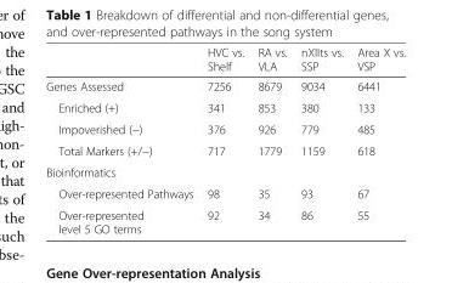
<table><thead><tr><td></td><td>HVC vs. Shelf</td><td>RA vs. VLA</td><td>nXIIts vs. SSP</td><td>Area X vs. VSP</td></tr></thead><tbody><tr><td>Genes Assessed</td><td>7256</td><td>8679</td><td>9034</td><td>6441</td></tr><tr><td>Enriched (+)</td><td>341</td><td>853</td><td>380</td><td>133</td></tr><tr><td>Impoverished (−)</td><td>376</td><td>926</td><td>779</td><td>485</td></tr><tr><td>Total Markers (+/−)</td><td>717</td><td>1779</td><td>1159</td><td>618</td></tr><tr><td colspan="5">Bioinformatics</td></tr><tr><td>Over-represented Pathways</td><td>98</td><td>35</td><td>93</td><td>67</td></tr><tr><td>Over-represented level 5 GO terms</td><td>92</td><td>34</td><td>86</td><td>55</td></tr></tbody></table>